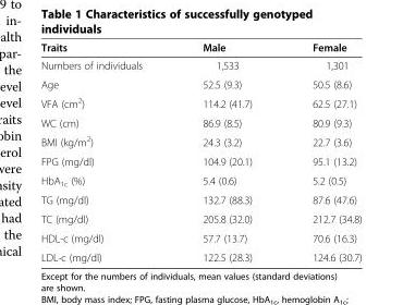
<table><thead><tr><td>Traits</td><td>Male</td><td>Female</td></tr></thead><tbody><tr><td>Numbers of individuals</td><td>1,533</td><td>1,301</td></tr><tr><td>Age</td><td>52.5 (9.3)</td><td>50.5 (8.6)</td></tr><tr><td>VFA (cm<sup>2</sup>)</td><td>114.2 (41.7)</td><td>62.5 (27.1)</td></tr><tr><td>WC (cm)</td><td>86.9 (8.5)</td><td>80.9 (9.3)</td></tr><tr><td>BMI (kg/m<sup>2</sup>)</td><td>24.3 (3.2)</td><td>22.7 (3.6)</td></tr><tr><td>FPG (mg/dl)</td><td>104.9 (20.1)</td><td>95.1 (13.2)</td></tr><tr><td>HbA<sub>1c</sub> (%)</td><td>5.4 (0.6)</td><td>5.2 (0.5)</td></tr><tr><td>TG (mg/dl)</td><td>132.7 (88.3)</td><td>87.6 (47.6)</td></tr><tr><td>TC (mg/dl)</td><td>205.8 (32.0)</td><td>212.7 (34.8)</td></tr><tr><td>HDL-c (mg/dl)</td><td>57.7 (13.7)</td><td>70.6 (16.3)</td></tr><tr><td>LDL-c (mg/dl)</td><td>122.5 (28.3)</td><td>124.6 (30.7)</td></tr></tbody></table>